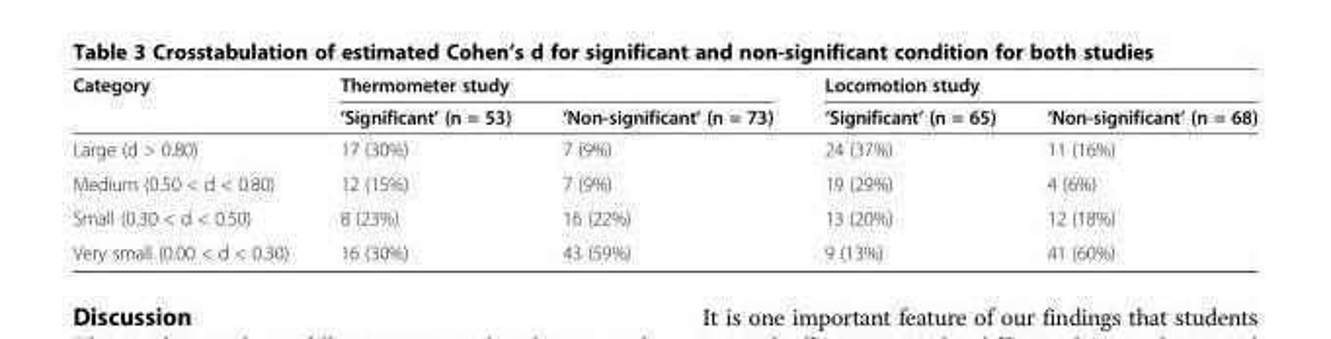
<table><thead><tr><td rowspan="2">Category</td><td colspan="2">Thermometer study</td><td colspan="2">Locomotion study</td></tr><tr><td>‘Significant’ (n = 53)</td><td>‘Non-significant’ (n = 73)</td><td>‘Significant’ (n = 65)</td><td>‘Non-significant’ (n = 68)</td></tr></thead><tbody><tr><td>Large (d &gt; 0.80)</td><td>17 (30%)</td><td>7 (9%)</td><td>24 (37%)</td><td>11 (16%)</td></tr><tr><td>Medium (0.50 &lt; d &lt; 0.80)</td><td>12 (15%)</td><td>7 (9%)</td><td>19 (29%)</td><td>4 (6%)</td></tr><tr><td>Small (0.30 &lt; d &lt; 0.50)</td><td>8 (23%)</td><td>16 (22%)</td><td>13 (20%)</td><td>12 (18%)</td></tr><tr><td>Very small (0.00 &lt; d &lt; 0.30)</td><td>16 (30%)</td><td>43 (59%)</td><td>9 (13%)</td><td>41 (60%)</td></tr></tbody></table>